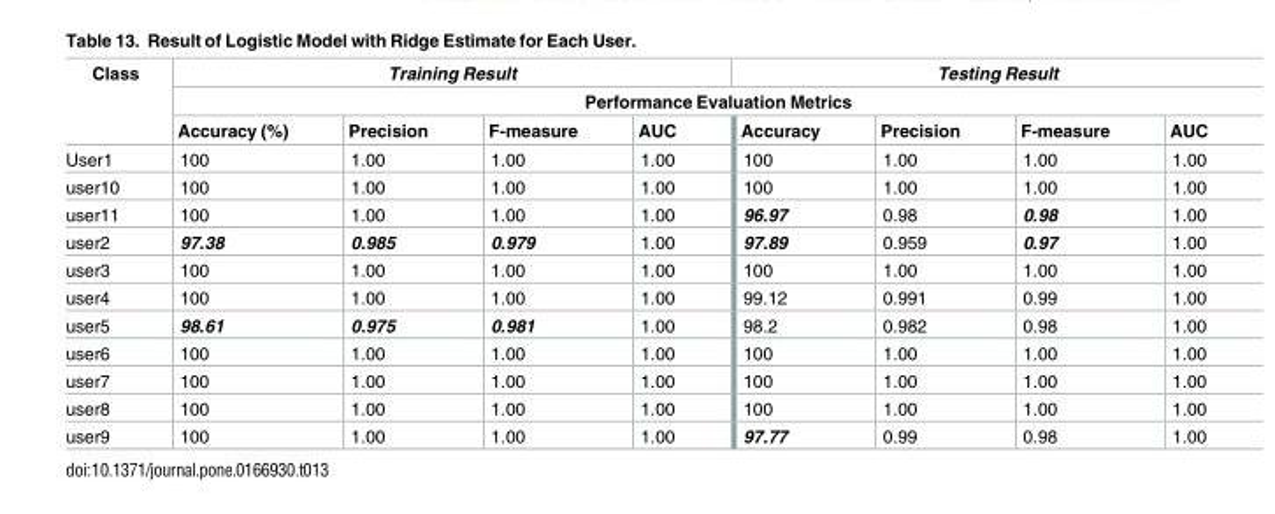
<table><thead><tr><td rowspan="3">Class</td><td colspan="4">Training Result</td><td colspan="4">Testing Result</td></tr><tr><td colspan="8">Performance Evaluation Metrics</td></tr><tr><td>Accuracy (%)</td><td>Precision</td><td>F-measure</td><td>AUC</td><td>Accuracy</td><td>Precision</td><td>F-measure</td><td>AUC</td></tr></thead><tbody><tr><td>User1</td><td>100</td><td>1.00</td><td>1.00</td><td>1.00</td><td>100</td><td>1.00</td><td>1.00</td><td>1.00</td></tr><tr><td>user10</td><td>100</td><td>1.00</td><td>1.00</td><td>1.00</td><td>100</td><td>1.00</td><td>1.00</td><td>1.00</td></tr><tr><td>user11</td><td>100</td><td>1.00</td><td>1.00</td><td>1.00</td><td>96.97</td><td>0.98</td><td>0.98</td><td>1.00</td></tr><tr><td>user2</td><td>97.38</td><td>0.985</td><td>0.979</td><td>1.00</td><td>97.89</td><td>0.959</td><td>0.97</td><td>1.00</td></tr><tr><td>user3</td><td>100</td><td>1.00</td><td>1.00</td><td>1.00</td><td>100</td><td>1.00</td><td>1.00</td><td>1.00</td></tr><tr><td>user4</td><td>100</td><td>1.00</td><td>1.00</td><td>1.00</td><td>99.12</td><td>0.991</td><td>0.99</td><td>1.00</td></tr><tr><td>user5</td><td>98.61</td><td>0.975</td><td>0.981</td><td>1.00</td><td>98.2</td><td>0.982</td><td>0.98</td><td>1.00</td></tr><tr><td>user6</td><td>100</td><td>1.00</td><td>1.00</td><td>1.00</td><td>100</td><td>1.00</td><td>1.00</td><td>1.00</td></tr><tr><td>user7</td><td>100</td><td>1.00</td><td>1.00</td><td>1.00</td><td>100</td><td>1.00</td><td>1.00</td><td>1.00</td></tr><tr><td>user8</td><td>100</td><td>1.00</td><td>1.00</td><td>1.00</td><td>100</td><td>1.00</td><td>1.00</td><td>1.00</td></tr><tr><td>user9</td><td>100</td><td>1.00</td><td>1.00</td><td>1.00</td><td>97.77</td><td>0.99</td><td>0.98</td><td>1.00</td></tr></tbody></table>